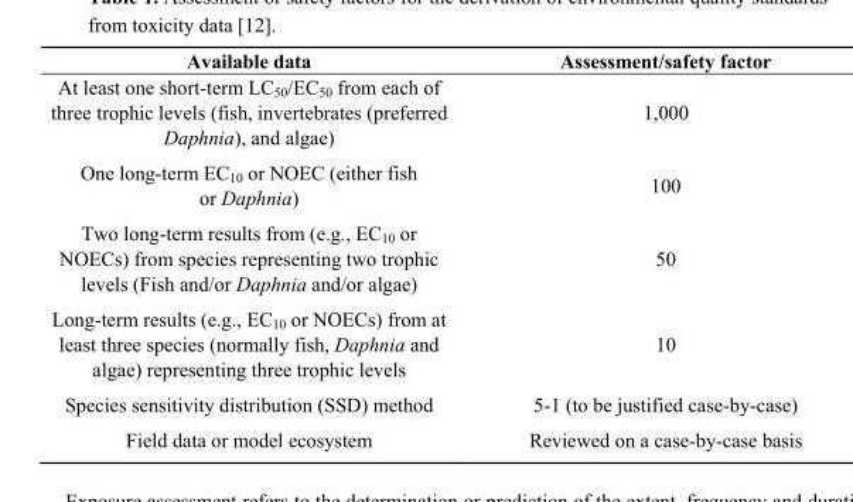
<table><thead><tr><td>Available data</td><td>Assessment/safety factor</td></tr></thead><tbody><tr><td>At least one short-term LC<sub>50</sub>/EC<sub>50</sub> from each of three trophic levels (fish, invertebrates (preferred Daphnia), and algae)</td><td>1,000</td></tr><tr><td>One long-term EC<sub>10</sub> or NOEC (either fish or Daphnia)</td><td>100</td></tr><tr><td>Two long-term results from (e.g., EC<sub>10</sub> or NOECs) from species representing two trophic levels (Fish and/or Daphnia and/or algae)</td><td>50</td></tr><tr><td>Long-term results (e.g., EC<sub>10</sub> or NOECs) from at least three species (normally fish, Daphnia and algae) representing three trophic levels</td><td>10</td></tr><tr><td>Species sensitivity distribution (SSD) method</td><td>5-1 (to be justified case-by-case)</td></tr><tr><td>Field data or model ecosystem</td><td>Reviewed on a case-by-case basis</td></tr></tbody></table>